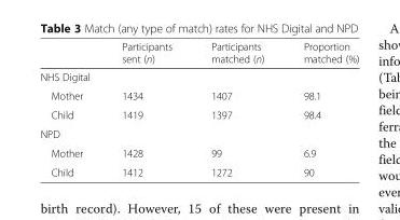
<table><thead><tr><td></td><td>Participants sent (n)</td><td>Participants matched (n)</td><td>Proportion matched (%)</td></tr></thead><tbody><tr><td colspan="4">NHS Digital</td></tr><tr><td>Mother</td><td>1434</td><td>1407</td><td>98.1</td></tr><tr><td>Child</td><td>1419</td><td>1397</td><td>98.4</td></tr><tr><td colspan="4">NPD</td></tr><tr><td>Mother</td><td>1428</td><td>99</td><td>6.9</td></tr><tr><td>Child</td><td>1412</td><td>1272</td><td>90</td></tr></tbody></table>